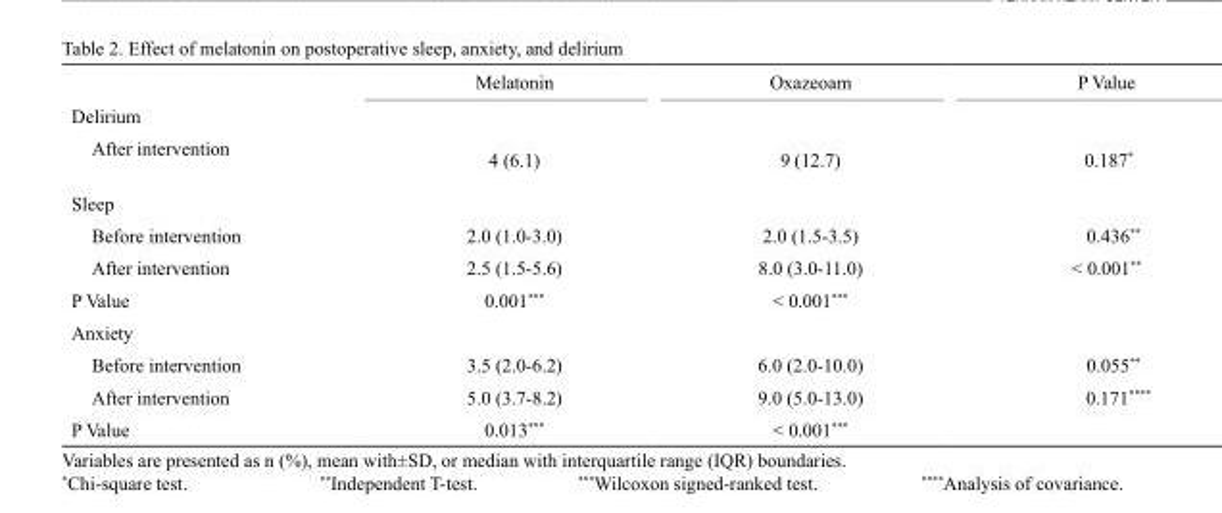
<table><thead><tr><td></td><td>Melatonin</td><td>Oxazeoam</td><td>P Value</td></tr></thead><tbody><tr><td colspan="4">Delirium</td></tr><tr><td>After intervention</td><td>4 (6.1)</td><td>9 (12.7)</td><td>0.187*</td></tr><tr><td colspan="4">Sleep</td></tr><tr><td>Before intervention</td><td>2.0 (1.0-3.0)</td><td>2.0 (1.5-3.5)</td><td>0.436**</td></tr><tr><td>After intervention</td><td>2.5 (1.5-5.6)</td><td>8.0 (3.0-11.0)</td><td>&lt; 0.001**</td></tr><tr><td>P Value</td><td>0.001***</td><td>&lt; 0.001***</td><td></td></tr><tr><td colspan="4">Anxiety</td></tr><tr><td>Before intervention</td><td>3.5 (2.0-6.2)</td><td>6.0 (2.0-10.0)</td><td>0.055**</td></tr><tr><td>After intervention</td><td>5.0 (3.7-8.2)</td><td>9.0 (5.0-13.0)</td><td>0.171****</td></tr><tr><td>P Value</td><td>0.013***</td><td>&lt; 0.001***</td><td></td></tr></tbody></table>